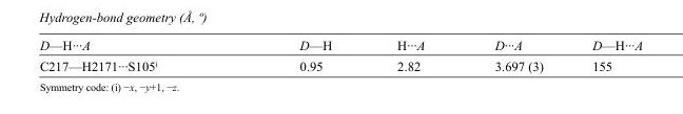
<table><tbody><tr><td>D—H···A</td><td>D—H</td><td>H···A</td><td>D···A</td><td>D—H···A</td></tr><tr><td>C217—H2171···S105<sup>i</sup></td><td>0.95</td><td>2.82</td><td>3.697 (3)</td><td>155</td></tr></tbody></table>